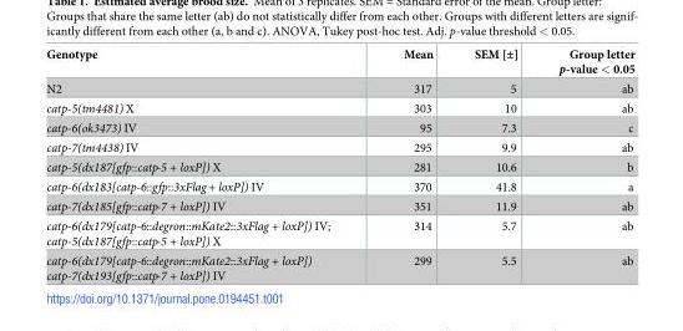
<table><thead><tr><td>Genotype</td><td>Mean</td><td>SEM [±]</td><td>Group letter p-value &lt; 0.05</td></tr></thead><tbody><tr><td>N2</td><td>317</td><td>5</td><td>ab</td></tr><tr><td>catp-5(tm4481) X</td><td>303</td><td>10</td><td>ab</td></tr><tr><td>catp-6(ok3473) IV</td><td>95</td><td>7.3</td><td>c</td></tr><tr><td>catp-7(tm4438) IV</td><td>295</td><td>9.9</td><td>ab</td></tr><tr><td>catp-5(dx187[gfp::catp-5 + loxP]) X</td><td>281</td><td>10.6</td><td>b</td></tr><tr><td>catp-6(dx183[catp-6::gfp::3xFlag+ loxP]) IV</td><td>370</td><td>41.8</td><td>a</td></tr><tr><td>catp-7(dx185[gfp::catp-7 + loxP]) IV</td><td>351</td><td>11.9</td><td>ab</td></tr><tr><td>catp-6(dx179[catp-6::degron::mKate2::3xFlag + loxP]) IV; catp-5(dx187[gfp::catp-5 + loxP]) X</td><td>314</td><td>5.7</td><td>ab</td></tr><tr><td>catp-6(dx179[catp-6::degron::mKate2::3xFlag + loxP]) catp-7(dx193[gfp::catp-7 + loxP]) IV</td><td>299</td><td>5.5</td><td>ab</td></tr></tbody></table>